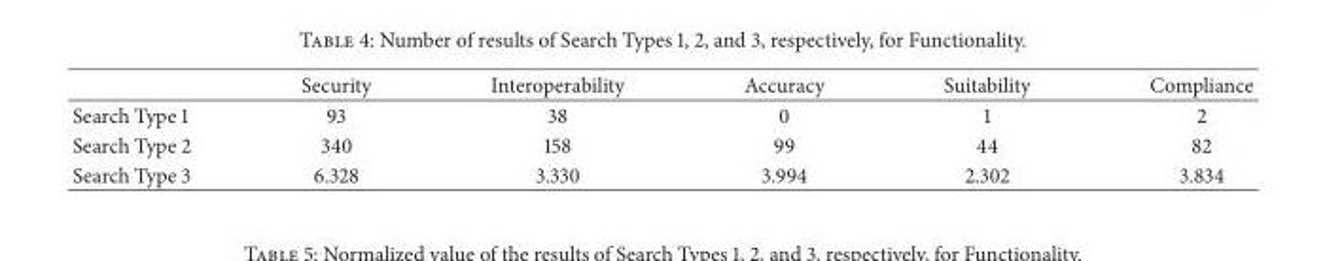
<table><thead><tr><td></td><td>Security</td><td>Interoperability</td><td>Accuracy</td><td>Suitability</td><td>Compliance</td></tr></thead><tbody><tr><td>Search Type 1</td><td>93</td><td>38</td><td>0</td><td>1</td><td>2</td></tr><tr><td>Search Type 2</td><td>340</td><td>158</td><td>99</td><td>44</td><td>82</td></tr><tr><td>Search Type 3</td><td>6.328</td><td>3.330</td><td>3.994</td><td>2.302</td><td>3.834</td></tr></tbody></table>